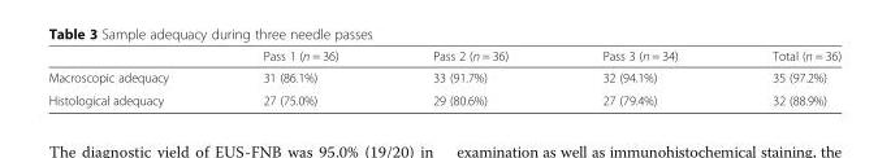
<table><thead><tr><td></td><td>Pass 1 (n = 36)</td><td>Pass 2 (n = 36)</td><td>Pass 3 (n = 34)</td><td>Total (n = 36)</td></tr></thead><tbody><tr><td>Macroscopic adequacy</td><td>31 (86.1%)</td><td>33 (91.7%)</td><td>32 (94.1%)</td><td>35 (97.2%)</td></tr><tr><td>Histological adequacy</td><td>27 (75.0%)</td><td>29 (80.6%)</td><td>27 (79.4%)</td><td>32 (88.9%)</td></tr></tbody></table>